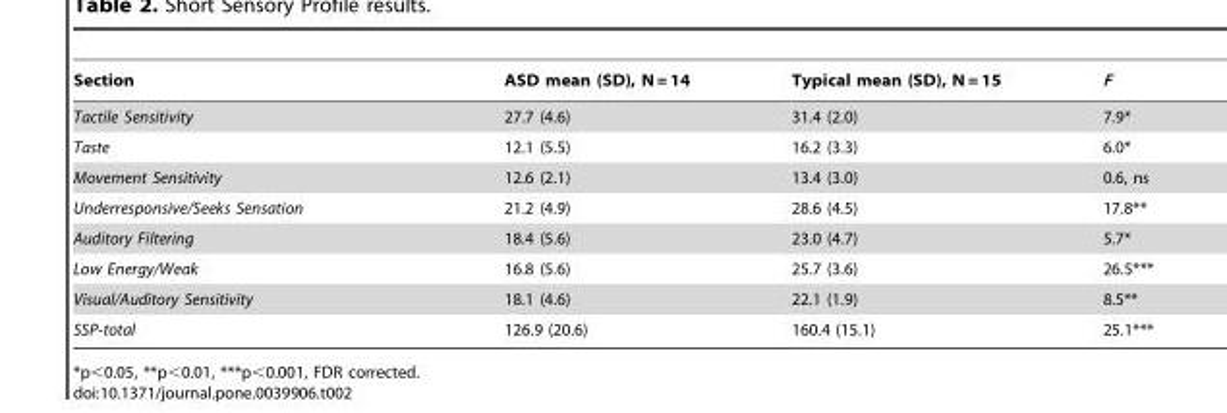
<table><thead><tr><td>Section</td><td>ASD mean (SD), N = 14</td><td>Typical mean (SD), N = 15</td><td>F</td></tr></thead><tbody><tr><td>Tactile Sensitivity</td><td>27.7 (4.6)</td><td>31.4 (2.0)</td><td>7.9*</td></tr><tr><td>Taste</td><td>12.1 (5.5)</td><td>16.2 (3.3)</td><td>6.0*</td></tr><tr><td>Movement Sensitivity</td><td>12.6 (2.1)</td><td>13.4 (3.0)</td><td>0.6, ns</td></tr><tr><td>Underresponsive/Seeks Sensation</td><td>21.2 (4.9)</td><td>28.6 (4.5)</td><td>17.8**</td></tr><tr><td>Auditory Filtering</td><td>18.4 (5.6)</td><td>23.0 (4.7)</td><td>5.7*</td></tr><tr><td>Low Energy/Weak</td><td>16.8 (5.6)</td><td>25.7 (3.6)</td><td>26.5***</td></tr><tr><td>Visual/Auditory Sensitivity</td><td>18.1 (4.6)</td><td>22.1 (1.9)</td><td>8.5**</td></tr><tr><td>SSP-total</td><td>126.9 (20.6)</td><td>160.4 (15.1)</td><td>25.1***</td></tr></tbody></table>